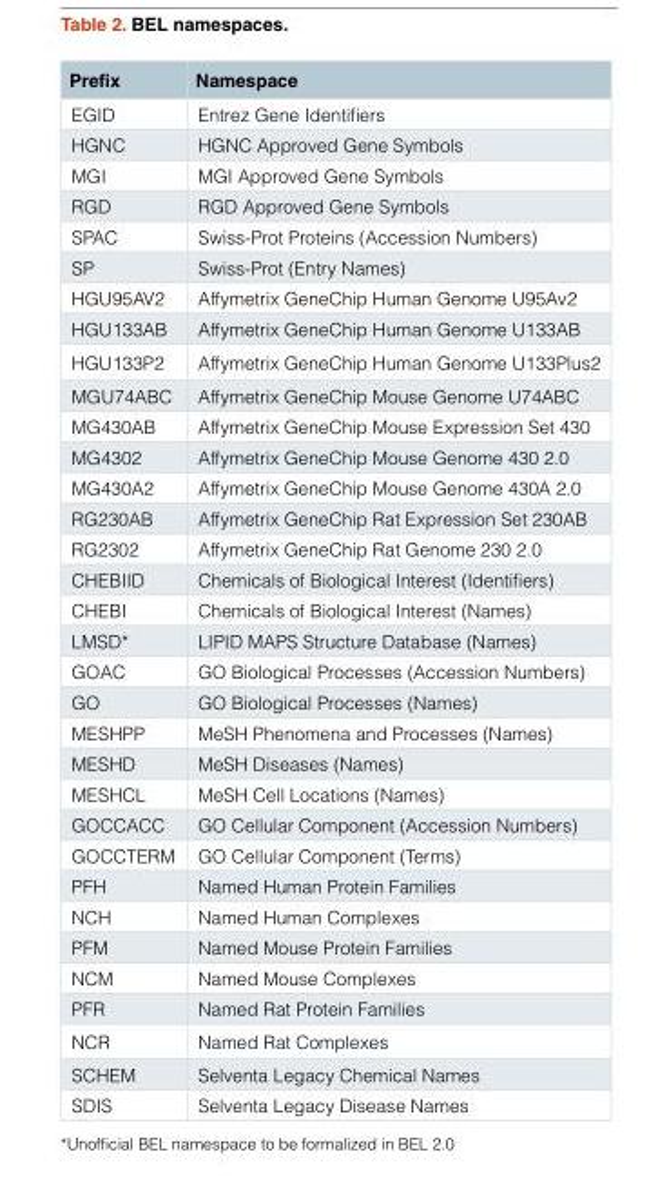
<table><thead><tr><td>Prefix</td><td>Namespace</td></tr></thead><tbody><tr><td>EGID</td><td>Entrez Gene Identifiers</td></tr><tr><td>HGNC</td><td>HGNC Approved Gene Symbols</td></tr><tr><td>MGI</td><td>MGI Approved Gene Symbols</td></tr><tr><td>RGD</td><td>RGD Approved Gene Symbols</td></tr><tr><td>SPAC</td><td>Swiss-Prot Proteins (Accession Numbers)</td></tr><tr><td>SP</td><td>Swiss-Prot (Entry Names)</td></tr><tr><td>HGU95AV2</td><td>Affymetrix GeneChip Human Genome U95Av2</td></tr><tr><td>HGU133AB</td><td>Affymetrix GeneChip Human Genome U133AB</td></tr><tr><td>HGU133P2</td><td>Affymetrix GeneChip Human Genome U133Plus2</td></tr><tr><td>MGU74ABC</td><td>Affymetrix GeneChip Mouse Genome U74ABC</td></tr><tr><td>MG430AB</td><td>Affymetrix GeneChip Mouse Expression Set 430</td></tr><tr><td>MG4302</td><td>Affymetrix GeneChip Mouse Genome 430 2.0</td></tr><tr><td>MG430A2</td><td>Affymetrix GeneChip Mouse Genome 430A 2.0</td></tr><tr><td>RG230AB</td><td>Affymetrix GeneChip Rat Expression Set 230AB</td></tr><tr><td>RG2302</td><td>Affymetrix GeneChip Rat Genome 230 2.0</td></tr><tr><td>CHEBIID</td><td>Chemicals of Biological Interest (Identifiers)</td></tr><tr><td>CHEBI</td><td>Chemicals of Biological Interest (Names)</td></tr><tr><td>LMSD*</td><td>LIPID MAPS Structure Database (Names)</td></tr><tr><td>GOAC</td><td>GO Biological Processes (Accession Numbers)</td></tr><tr><td>GO</td><td>GO Biological Processes (Names)</td></tr><tr><td>MESHPP</td><td>MeSH Phenomena and Processes (Names)</td></tr><tr><td>MESHD</td><td>MeSH Diseases (Names)</td></tr><tr><td>MESHCL</td><td>MeSH Cell Locations (Names)</td></tr><tr><td>GOCCACC</td><td>GO Cellular Component (Accession Numbers)</td></tr><tr><td>GOCCTERM</td><td>GO Cellular Component (Terms)</td></tr><tr><td>PFH</td><td>Named Human Protein Families</td></tr><tr><td>NCH</td><td>Named Human Complexes</td></tr><tr><td>PFM</td><td>Named Mouse Protein Families</td></tr><tr><td>NCM</td><td>Named Mouse Complexes</td></tr><tr><td>PFR</td><td>Named Rat Protein Families</td></tr><tr><td>NCR</td><td>Named Rat Complexes</td></tr><tr><td>SCHEM</td><td>Selventa Legacy Chemical Names</td></tr><tr><td>SDIS</td><td>Selventa Legacy Disease Names</td></tr></tbody></table>